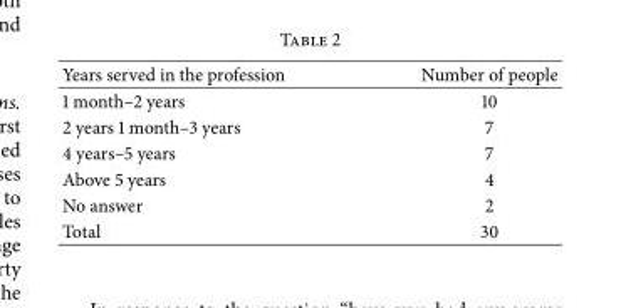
<table><thead><tr><td>Years served in the profession</td><td>Number of people</td></tr></thead><tbody><tr><td>1 month–2 years</td><td>10</td></tr><tr><td>2 years 1 month–3 years</td><td>7</td></tr><tr><td>4 years–5 years</td><td>7</td></tr><tr><td>Above 5 years</td><td>4</td></tr><tr><td>No answer</td><td>2</td></tr><tr><td>Total</td><td>30</td></tr></tbody></table>